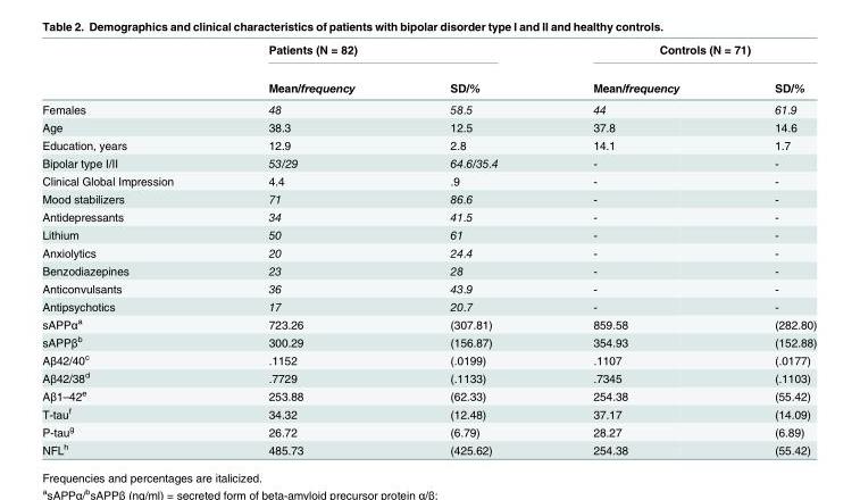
<table><thead><tr><td rowspan="2"></td><td rowspan="2">Patients (N = 82) Mean/frequency</td><td rowspan="2">SD/%</td><td colspan="2">Controls (N = 71)</td></tr><tr><td>Mean/frequency</td><td>SD/%</td></tr></thead><tbody><tr><td>Females</td><td>48</td><td>58.5</td><td>44</td><td>61.9</td></tr><tr><td>Age</td><td>38.3</td><td>12.5</td><td>37.8</td><td>14.6</td></tr><tr><td>Education, years</td><td>12.9</td><td>2.8</td><td>14.1</td><td>1.7</td></tr><tr><td>Bipolar type I/II</td><td>53/29</td><td>64.6/35.4</td><td>-</td><td>-</td></tr><tr><td>Clinical Global Impression</td><td>4.4</td><td>.9</td><td>-</td><td>-</td></tr><tr><td>Mood stabilizers</td><td>71</td><td>86.6</td><td>-</td><td>-</td></tr><tr><td>Antidepressants</td><td>34</td><td>41.5</td><td>-</td><td>-</td></tr><tr><td>Lithium</td><td>50</td><td>61</td><td>-</td><td>-</td></tr><tr><td>Anxiolytics</td><td>20</td><td>24.4</td><td>-</td><td>-</td></tr><tr><td>Benzodiazepines</td><td>23</td><td>28</td><td>-</td><td>-</td></tr><tr><td>Anticonvulsants</td><td>36</td><td>43.9</td><td>-</td><td>-</td></tr><tr><td>Antipsychotics</td><td>17</td><td>20.7</td><td>-</td><td>-</td></tr><tr><td>sAPPα<sup>a</sup></td><td>723.26</td><td>(307.81)</td><td>859.58</td><td>(282.80)</td></tr><tr><td>sAPPβ<sup>b</sup></td><td>300.29</td><td>(156.87)</td><td>354.93</td><td>(152.88)</td></tr><tr><td>Aβ42/40<sup>c</sup></td><td>.1152</td><td>(.0199)</td><td>.1107</td><td>(.0177)</td></tr><tr><td>Aβ42/38<sup>d</sup></td><td>.7729</td><td>(.1133)</td><td>.7345</td><td>(.1103)</td></tr><tr><td>Aβ1–42<sup>e</sup></td><td>253.88</td><td>(62.33)</td><td>254.38</td><td>(55.42)</td></tr><tr><td>T-tau<sup>f</sup></td><td>34.32</td><td>(12.48)</td><td>37.17</td><td>(14.09)</td></tr><tr><td>P-tau<sup>g</sup></td><td>26.72</td><td>(6.79)</td><td>28.27</td><td>(6.89)</td></tr><tr><td>NFL<sup>h</sup></td><td>485.73</td><td>(425.62)</td><td>254.38</td><td>(55.42)</td></tr></tbody></table>